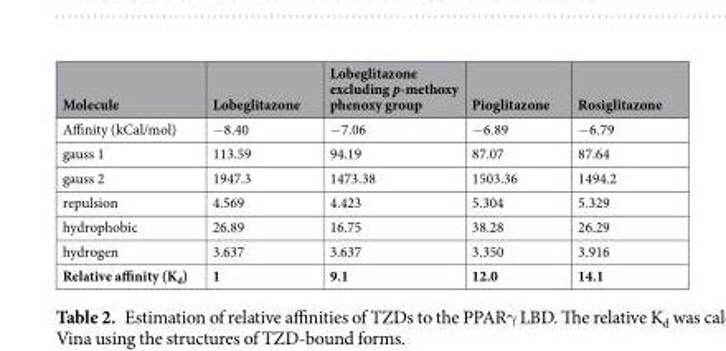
<table><thead><tr><td>Molecule</td><td>Lobeglitazone</td><td>Lobeglitazone excluding p-methoxy phenoxy group</td><td>Pioglitazone</td><td>Rosiglitazone</td></tr></thead><tbody><tr><td>Affinity (kCal/mol)</td><td>−8.40</td><td>−7.06</td><td>−6.89</td><td>−6.79</td></tr><tr><td>gauss 1</td><td>113.59</td><td>94.19</td><td>87.07</td><td>87.64</td></tr><tr><td>gauss 2</td><td>1947.3</td><td>1473.38</td><td>1503.36</td><td>1494.2</td></tr><tr><td>repulsion</td><td>4.569</td><td>4.423</td><td>5.304</td><td>5.329</td></tr><tr><td>hydrophobic</td><td>26.89</td><td>16.75</td><td>38.28</td><td>26.29</td></tr><tr><td>hydrogen</td><td>3.637</td><td>3.637</td><td>3.350</td><td>3.916</td></tr><tr><td>Relative affinity (K<sub>d</sub>)</td><td>1</td><td>9.1</td><td>12.0</td><td>14.1</td></tr></tbody></table>